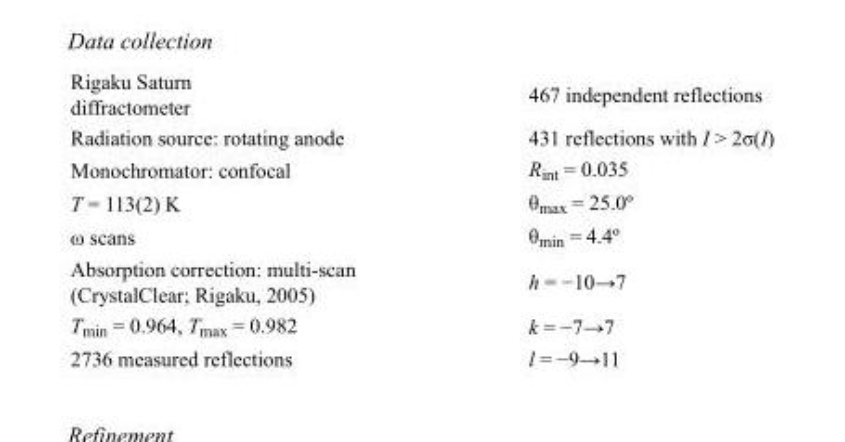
<table><tbody><tr><td>Rigaku Saturn diffractometer</td><td>467 independent reflections</td></tr><tr><td>Radiation source: rotating anode</td><td>431 reflections with I &gt; 2σ(I)</td></tr><tr><td>Monochromator: confocal</td><td>R<sub>int</sub> = 0.035</td></tr><tr><td>T = 113(2) K</td><td>θ<sub>max</sub> = 25.0º</td></tr><tr><td>ω scans</td><td>θ<sub>min</sub> = 4.4º</td></tr><tr><td>Absorption correction: multi-scan (CrystalClear; Rigaku, 2005)</td><td>h = −10→7</td></tr><tr><td>T<sub>min</sub> = 0.964, T<sub>max</sub> = 0.982</td><td>k = −7→7</td></tr><tr><td>2736 measured reflections</td><td>l = −9→11</td></tr></tbody></table>